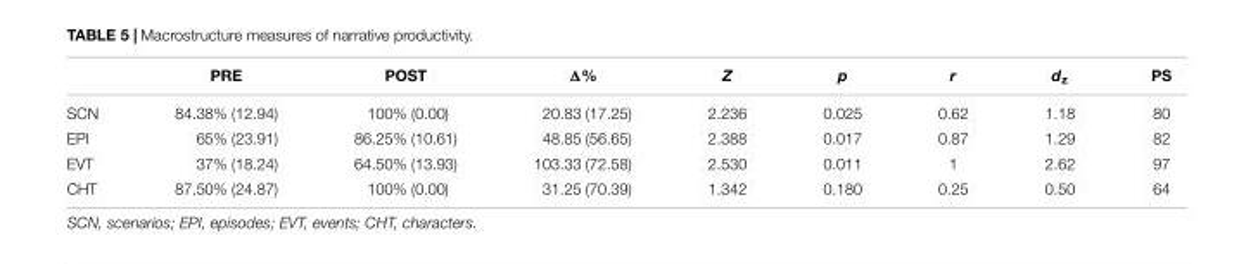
<table><thead><tr><td></td><td>PRE</td><td>POST</td><td>Δ%</td><td>Z</td><td>p</td><td>r</td><td>d<sub>z</sub></td><td>PS</td></tr></thead><tbody><tr><td>SCN</td><td>84.38% (12.94)</td><td>100% (0.00)</td><td>20.83 (17.25)</td><td>2.236</td><td>0.025</td><td>0.62</td><td>1.18</td><td>80</td></tr><tr><td>EPI</td><td>65% (23.91)</td><td>86.25% (10.61)</td><td>48.85 (56.65)</td><td>2.388</td><td>0.017</td><td>0.87</td><td>1.29</td><td>82</td></tr><tr><td>EVT</td><td>37% (18.24)</td><td>64.50% (13.93)</td><td>103.33 (72.58)</td><td>2.530</td><td>0.011</td><td>1</td><td>2.62</td><td>97</td></tr><tr><td>CHT</td><td>87.50% (24.87)</td><td>100% (0.00)</td><td>31.25 (70.39)</td><td>1.342</td><td>0.180</td><td>0.25</td><td>0.50</td><td>64</td></tr></tbody></table>